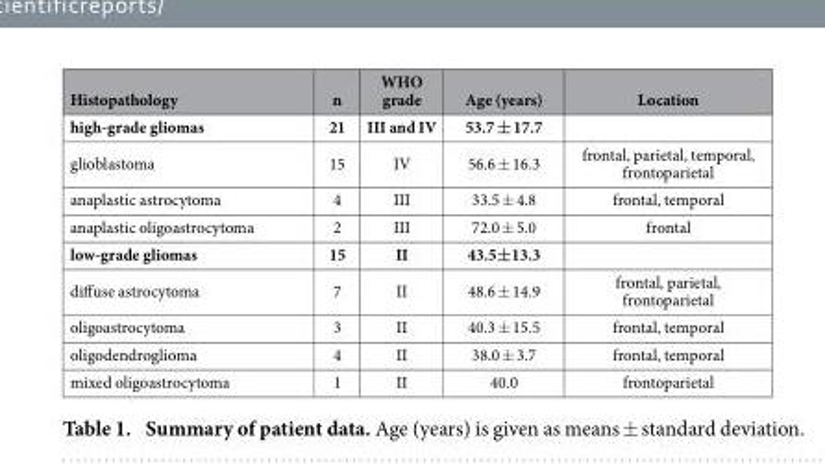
<table><thead><tr><td>Histopathology</td><td>n</td><td>WHO grade</td><td>Age (years)</td><td>Location</td></tr></thead><tbody><tr><td>high-grade gliomas</td><td>21</td><td>III and IV</td><td>53.7 ± 17.7</td><td></td></tr><tr><td>glioblastoma</td><td>15</td><td>IV</td><td>56.6 ± 16.3</td><td>frontal, parietal, temporal, frontoparietal</td></tr><tr><td>anaplastic astrocytoma</td><td>4</td><td>III</td><td>33.5 ± 4.8</td><td>frontal, temporal</td></tr><tr><td>anaplastic oligoastrocytoma</td><td>2</td><td>III</td><td>72.0 ± 5.0</td><td>frontal</td></tr><tr><td>low-grade gliomas</td><td>15</td><td>II</td><td>43.5±13.3</td><td></td></tr><tr><td>diffuse astrocytoma</td><td>7</td><td>II</td><td>48.6 ± 14.9</td><td>frontal, parietal, frontoparietal</td></tr><tr><td>oligoastrocytoma</td><td>3</td><td>II</td><td>40.3 ± 15.5</td><td>frontal, temporal</td></tr><tr><td>oligodendroglioma</td><td>4</td><td>II</td><td>38.0 ± 3.7</td><td>frontal, temporal</td></tr><tr><td>mixed oligoastrocytoma</td><td>1</td><td>II</td><td>40.0</td><td>frontoparietal</td></tr></tbody></table>